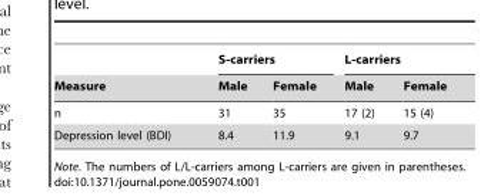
<table><thead><tr><td rowspan="2">Measure</td><td colspan="2">S-carriers</td><td colspan="2">L-carriers</td></tr><tr><td>Male</td><td>Female</td><td>Male</td><td>Female</td></tr></thead><tbody><tr><td>n</td><td>31</td><td>35</td><td>17 (2)</td><td>15 (4)</td></tr><tr><td>Depression level (BDI)</td><td>8.4</td><td>11.9</td><td>9.1</td><td>9.7</td></tr></tbody></table>